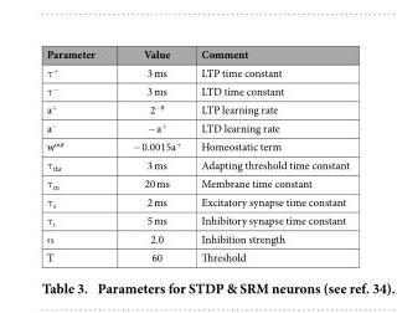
<table><thead><tr><td>Parameter</td><td>Value</td><td>Comment</td></tr></thead><tbody><tr><td>τ <sup>+</sup></td><td>3 ms</td><td>LTP time constant</td></tr><tr><td>τ <sup>−</sup></td><td>3 ms</td><td>LTD time constant</td></tr><tr><td>a<sup>+</sup></td><td>2<sup>−8</sup></td><td>LTP learning rate</td></tr><tr><td>a<sup>−</sup></td><td>− a<sup>+</sup></td><td>LTD learning rate</td></tr><tr><td>w<sup>out</sup></td><td>− 0.0015a<sup>+</sup></td><td>Homeostatic term</td></tr><tr><td>τ <sub>thr</sub></td><td>3 ms</td><td>Adapting threshold time constant</td></tr><tr><td>τ <sub>m</sub></td><td>20 ms</td><td>Membrane time constant</td></tr><tr><td>τ <sub>s</sub></td><td>2 ms</td><td>Excitatory synapse time constant</td></tr><tr><td>τ <sub>i</sub></td><td>5 ms</td><td>Inhibitory synapse time constant</td></tr><tr><td>α</td><td>2.0</td><td>Inhibition strength</td></tr><tr><td>T</td><td>60</td><td>Threshold</td></tr></tbody></table>